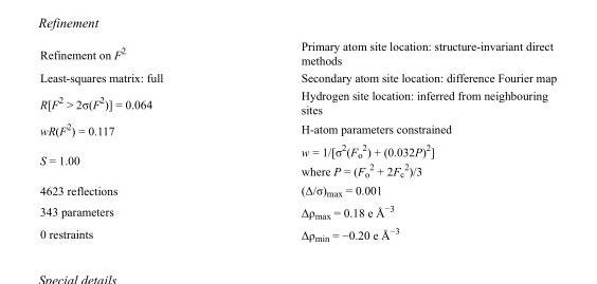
<table><tbody><tr><td>Refinement on F<sup>2</sup></td><td>Primary atom site location: structure-invariant direct methods</td></tr><tr><td>Least-squares matrix: full</td><td>Secondary atom site location: difference Fourier map</td></tr><tr><td>R[F<sup>2</sup> &gt; 2σ(F<sup>2</sup>)] = 0.064</td><td>Hydrogen site location: inferred from neighbouring sites</td></tr><tr><td>wR(F<sup>2</sup>) = 0.117</td><td>H-atom parameters constrained</td></tr><tr><td>S = 1.00</td><td>w = 1/[σ<sup>2</sup>(F<sub>o</sub> <sup>2</sup>) + (0.032P)<sup>2</sup>] where P = (F<sub>o</sub> <sup>2</sup> + 2F<sub>c</sub> <sup>2</sup>)/3</td></tr><tr><td>4623 reflections</td><td>(Δ/σ)<sub>max</sub> = 0.001</td></tr><tr><td>343 parameters</td><td>Δρ<sub>max</sub> = 0.18 e Å<sup>−3</sup></td></tr><tr><td>0 restraints</td><td>Δρ<sub>min</sub> = −0.20 e Å<sup>−3</sup></td></tr></tbody></table>